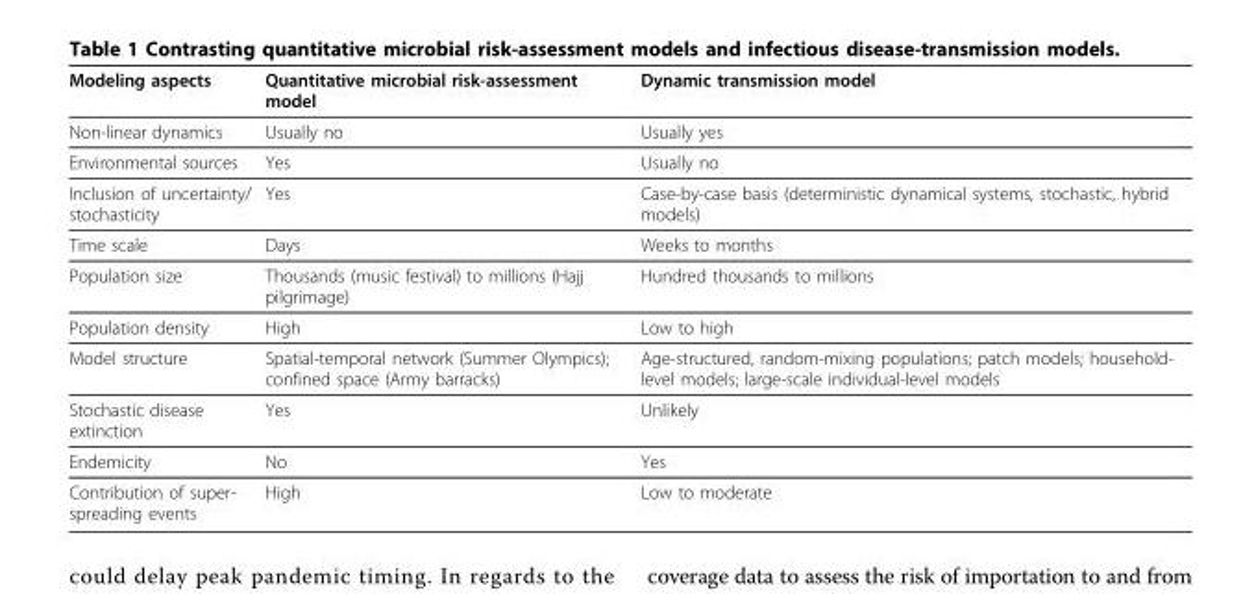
<table><thead><tr><td>Modeling aspects</td><td>Quantitative microbial risk-assessment model</td><td>Dynamic transmission model</td></tr></thead><tbody><tr><td>Non-linear dynamics</td><td>Usually no</td><td>Usually yes</td></tr><tr><td>Environmental sources</td><td>Yes</td><td>Usually no</td></tr><tr><td>Inclusion of uncertainty/ stochasticity</td><td>Yes</td><td>Case-by-case basis (deterministic dynamical systems, stochastic, hybrid models)</td></tr><tr><td>Time scale</td><td>Days</td><td>Weeks to months</td></tr><tr><td>Population size</td><td>Thousands (music festival) to millions (Hajj pilgrimage)</td><td>Hundred thousands to millions</td></tr><tr><td>Population density</td><td>High</td><td>Low to high</td></tr><tr><td>Model structure</td><td>Spatial-temporal network (Summer Olympics); confined space (Army barracks)</td><td>Age-structured, random-mixing populations; patch models; household- level models; large-scale individual-level models</td></tr><tr><td>Stochastic disease extinction</td><td>Yes</td><td>Unlikely</td></tr><tr><td>Endemicity</td><td>No</td><td>Yes</td></tr><tr><td>Contribution of super- spreading events</td><td>High</td><td>Low to moderate</td></tr></tbody></table>